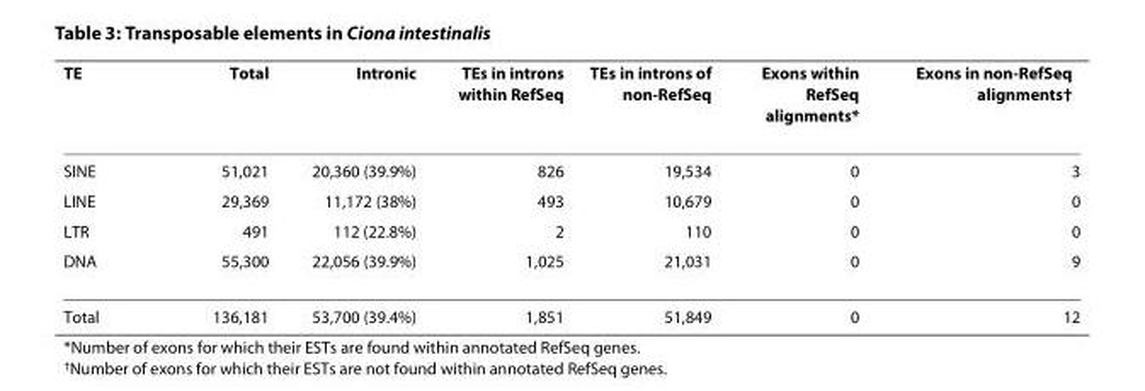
<table><thead><tr><td>TE</td><td>Total</td><td>Intronic</td><td>TEs in introns within RefSeq</td><td>TEs in introns of non-RefSeq</td><td>Exons within RefSeq alignments*</td><td>Exons in non-RefSeq alignments<sup>†</sup></td></tr></thead><tbody><tr><td>SINE</td><td>51,021</td><td>20,360 (39.9%)</td><td>826</td><td>19,534</td><td>0</td><td>3</td></tr><tr><td>LINE</td><td>29,369</td><td>11,172 (38%)</td><td>493</td><td>10,679</td><td>0</td><td>0</td></tr><tr><td>LTR</td><td>491</td><td>112 (22.8%)</td><td>2</td><td>110</td><td>0</td><td>0</td></tr><tr><td>DNA</td><td>55,300</td><td>22,056 (39.9%)</td><td>1,025</td><td>21,031</td><td>0</td><td>9</td></tr><tr><td>Total</td><td>136,181</td><td>53,700 (39.4%)</td><td>1,851</td><td>51,849</td><td>0</td><td>12</td></tr></tbody></table>